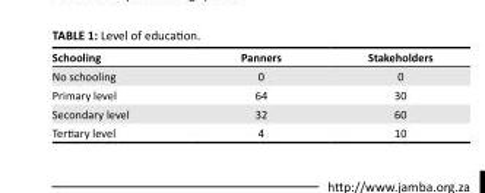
<table><thead><tr><td>Schooling</td><td>Panners</td><td>Stakeholders</td></tr></thead><tbody><tr><td>No schooling</td><td>0</td><td>0</td></tr><tr><td>Primary level</td><td>64</td><td>30</td></tr><tr><td>Secondary level</td><td>32</td><td>60</td></tr><tr><td>Tertiary level</td><td>4</td><td>10</td></tr></tbody></table>